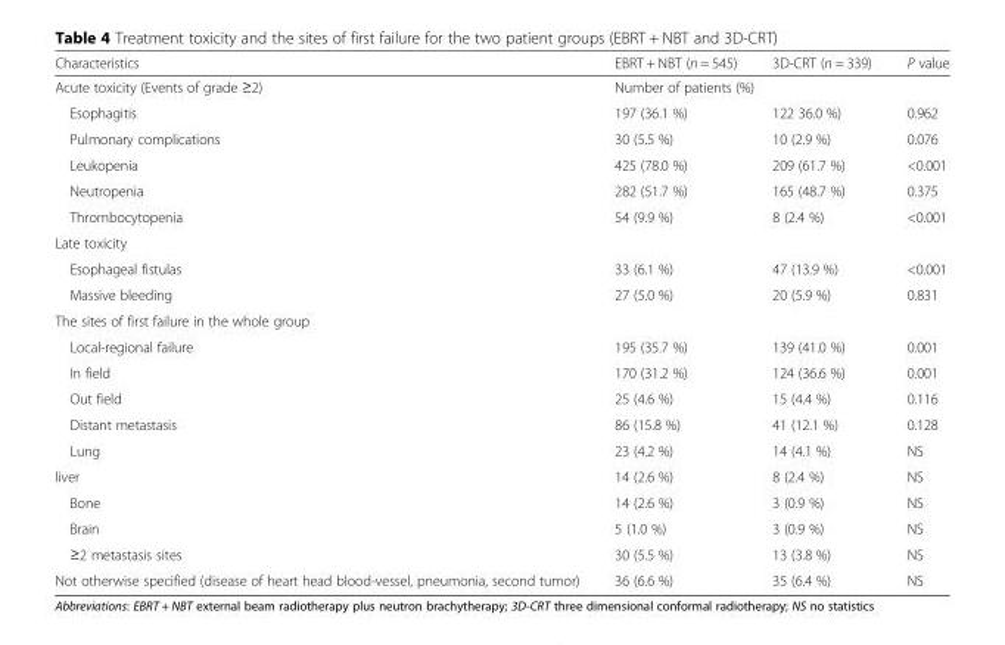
<table><thead><tr><td>Characteristics</td><td>EBRT + NBT (n = 545)</td><td>3D-CRT (n = 339)</td><td>P value</td></tr></thead><tbody><tr><td>Acute toxicity (Events of grade ≥2)</td><td colspan="3">Number of patients (%)</td></tr><tr><td>Esophagitis</td><td>197 (36.1 %)</td><td>122 36.0 %)</td><td>0.962</td></tr><tr><td>Pulmonary complications</td><td>30 (5.5 %)</td><td>10 (2.9 %)</td><td>0.076</td></tr><tr><td>Leukopenia</td><td>425 (78.0 %)</td><td>209 (61.7 %)</td><td>&lt;0.001</td></tr><tr><td>Neutropenia</td><td>282 (51.7 %)</td><td>165 (48.7 %)</td><td>0.375</td></tr><tr><td>Thrombocytopenia</td><td>54 (9.9 %)</td><td>8 (2.4 %)</td><td>&lt;0.001</td></tr><tr><td colspan="4">Late toxicity</td></tr><tr><td>Esophageal fistulas</td><td>33 (6.1 %)</td><td>47 (13.9 %)</td><td>&lt;0.001</td></tr><tr><td>Massive bleeding</td><td>27 (5.0 %)</td><td>20 (5.9 %)</td><td>0.831</td></tr><tr><td colspan="4">The sites of first failure in the whole group</td></tr><tr><td>Local-regional failure</td><td>195 (35.7 %)</td><td>139 (41.0 %)</td><td>0.001</td></tr><tr><td>In field</td><td>170 (31.2 %)</td><td>124 (36.6 %)</td><td>0.001</td></tr><tr><td>Out field</td><td>25 (4.6 %)</td><td>15 (4.4 %)</td><td>0.116</td></tr><tr><td>Distant metastasis</td><td>86 (15.8 %)</td><td>41 (12.1 %)</td><td>0.128</td></tr><tr><td>Lung</td><td>23 (4.2 %)</td><td>14 (4.1 %)</td><td>NS</td></tr><tr><td>liver</td><td>14 (2.6 %)</td><td>8 (2.4 %)</td><td>NS</td></tr><tr><td>Bone</td><td>14 (2.6 %)</td><td>3 (0.9 %)</td><td>NS</td></tr><tr><td>Brain</td><td>5 (1.0 %)</td><td>3 (0.9 %)</td><td>NS</td></tr><tr><td>≥2 metastasis sites</td><td>30 (5.5 %)</td><td>13 (3.8 %)</td><td>NS</td></tr><tr><td>Not otherwise specified (disease of heart head blood-vessel, pneumonia, second tumor)</td><td>36 (6.6 %)</td><td>35 (6.4 %)</td><td>NS</td></tr></tbody></table>